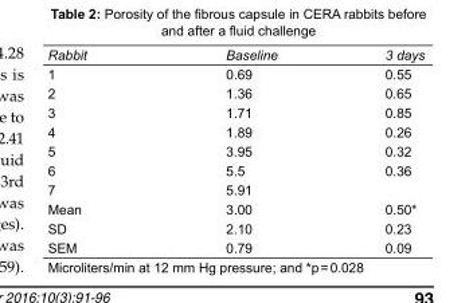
<table><tbody><tr><td>Rabbit</td><td>Baseline</td><td>3 days</td></tr><tr><td>1</td><td>0.69</td><td>0.55</td></tr><tr><td>2</td><td>1.36</td><td>0.65</td></tr><tr><td>3</td><td>1.71</td><td>0.85</td></tr><tr><td>4</td><td>1.89</td><td>0.26</td></tr><tr><td>5</td><td>3.95</td><td>0.32</td></tr><tr><td>6</td><td>5.5</td><td>0.36</td></tr><tr><td>7</td><td>5.91</td><td></td></tr><tr><td>Mean</td><td>3.00</td><td>0.50*</td></tr><tr><td>SD</td><td>2.10</td><td>0.23</td></tr><tr><td>SEM</td><td>0.79</td><td>0.09</td></tr></tbody></table>